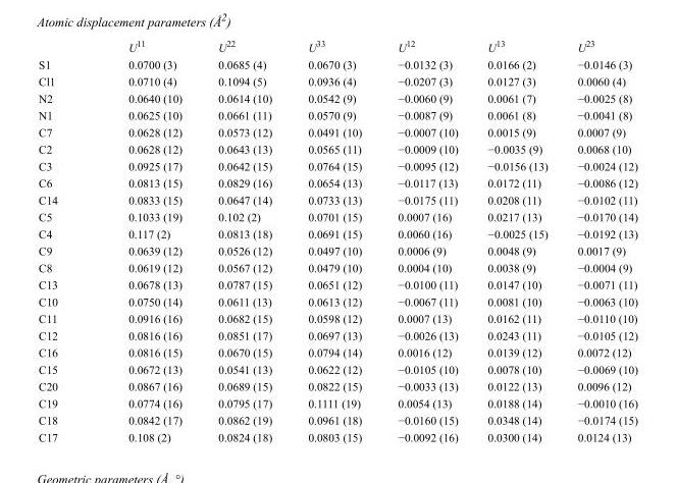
<table><thead><tr><td></td><td>U<sup>11</sup></td><td>U<sup>22</sup></td><td>U<sup>33</sup></td><td>U<sup>12</sup></td><td>U<sup>13</sup></td><td>U<sup>23</sup></td></tr></thead><tbody><tr><td>S1</td><td>0.0700 (3)</td><td>0.0685 (4)</td><td>0.0670 (3)</td><td>−0.0132 (3)</td><td>0.0166 (2)</td><td>−0.0146 (3)</td></tr><tr><td>Cl1</td><td>0.0710 (4)</td><td>0.1094 (5)</td><td>0.0936 (4)</td><td>−0.0207 (3)</td><td>0.0127 (3)</td><td>0.0060 (4)</td></tr><tr><td>N2</td><td>0.0640 (10)</td><td>0.0614 (10)</td><td>0.0542 (9)</td><td>−0.0060 (9)</td><td>0.0061 (7)</td><td>−0.0025 (8)</td></tr><tr><td>N1</td><td>0.0625 (10)</td><td>0.0661 (11)</td><td>0.0570 (9)</td><td>−0.0087 (9)</td><td>0.0061 (8)</td><td>−0.0041 (8)</td></tr><tr><td>C7</td><td>0.0628 (12)</td><td>0.0573 (12)</td><td>0.0491 (10)</td><td>−0.0007 (10)</td><td>0.0015 (9)</td><td>0.0007 (9)</td></tr><tr><td>C2</td><td>0.0628 (12)</td><td>0.0643 (13)</td><td>0.0565 (11)</td><td>−0.0009 (10)</td><td>−0.0035 (9)</td><td>0.0068 (10)</td></tr><tr><td>C3</td><td>0.0925 (17)</td><td>0.0642 (15)</td><td>0.0764 (15)</td><td>−0.0095 (12)</td><td>−0.0156 (13)</td><td>−0.0024 (12)</td></tr><tr><td>C6</td><td>0.0813 (15)</td><td>0.0829 (16)</td><td>0.0654 (13)</td><td>−0.0117 (13)</td><td>0.0172 (11)</td><td>−0.0086 (12)</td></tr><tr><td>C14</td><td>0.0833 (15)</td><td>0.0647 (14)</td><td>0.0733 (13)</td><td>−0.0175 (11)</td><td>0.0208 (11)</td><td>−0.0102 (11)</td></tr><tr><td>C5</td><td>0.1033 (19)</td><td>0.102 (2)</td><td>0.0701 (15)</td><td>0.0007 (16)</td><td>0.0217 (13)</td><td>−0.0170 (14)</td></tr><tr><td>C4</td><td>0.117 (2)</td><td>0.0813 (18)</td><td>0.0691 (15)</td><td>0.0060 (16)</td><td>−0.0025 (15)</td><td>−0.0192 (13)</td></tr><tr><td>C9</td><td>0.0639 (12)</td><td>0.0526 (12)</td><td>0.0497 (10)</td><td>0.0006 (9)</td><td>0.0048 (9)</td><td>0.0017 (9)</td></tr><tr><td>C8</td><td>0.0619 (12)</td><td>0.0567 (12)</td><td>0.0479 (10)</td><td>0.0004 (10)</td><td>0.0038 (9)</td><td>−0.0004 (9)</td></tr><tr><td>C13</td><td>0.0678 (13)</td><td>0.0787 (15)</td><td>0.0651 (12)</td><td>−0.0100 (11)</td><td>0.0147 (10)</td><td>−0.0071 (11)</td></tr><tr><td>C10</td><td>0.0750 (14)</td><td>0.0611 (13)</td><td>0.0613 (12)</td><td>−0.0067 (11)</td><td>0.0081 (10)</td><td>−0.0063 (10)</td></tr><tr><td>C11</td><td>0.0916 (16)</td><td>0.0682 (15)</td><td>0.0598 (12)</td><td>0.0007 (13)</td><td>0.0162 (11)</td><td>−0.0110 (10)</td></tr><tr><td>C12</td><td>0.0816 (16)</td><td>0.0851 (17)</td><td>0.0697 (13)</td><td>−0.0026 (13)</td><td>0.0243 (11)</td><td>−0.0105 (12)</td></tr><tr><td>C16</td><td>0.0816 (15)</td><td>0.0670 (15)</td><td>0.0794 (14)</td><td>0.0016 (12)</td><td>0.0139 (12)</td><td>0.0072 (12)</td></tr><tr><td>C15</td><td>0.0672 (13)</td><td>0.0541 (13)</td><td>0.0622 (12)</td><td>−0.0105 (10)</td><td>0.0078 (10)</td><td>−0.0069 (10)</td></tr><tr><td>C20</td><td>0.0867 (16)</td><td>0.0689 (15)</td><td>0.0822 (15)</td><td>−0.0033 (13)</td><td>0.0122 (13)</td><td>0.0096 (12)</td></tr><tr><td>C19</td><td>0.0774 (16)</td><td>0.0795 (17)</td><td>0.1111 (19)</td><td>0.0054 (13)</td><td>0.0188 (14)</td><td>−0.0010 (16)</td></tr><tr><td>C18</td><td>0.0842 (17)</td><td>0.0862 (19)</td><td>0.0961 (18)</td><td>−0.0160 (15)</td><td>0.0348 (14)</td><td>−0.0174 (15)</td></tr><tr><td>C17</td><td>0.108 (2)</td><td>0.0824 (18)</td><td>0.0803 (15)</td><td>−0.0092 (16)</td><td>0.0300 (14)</td><td>0.0124 (13)</td></tr></tbody></table>